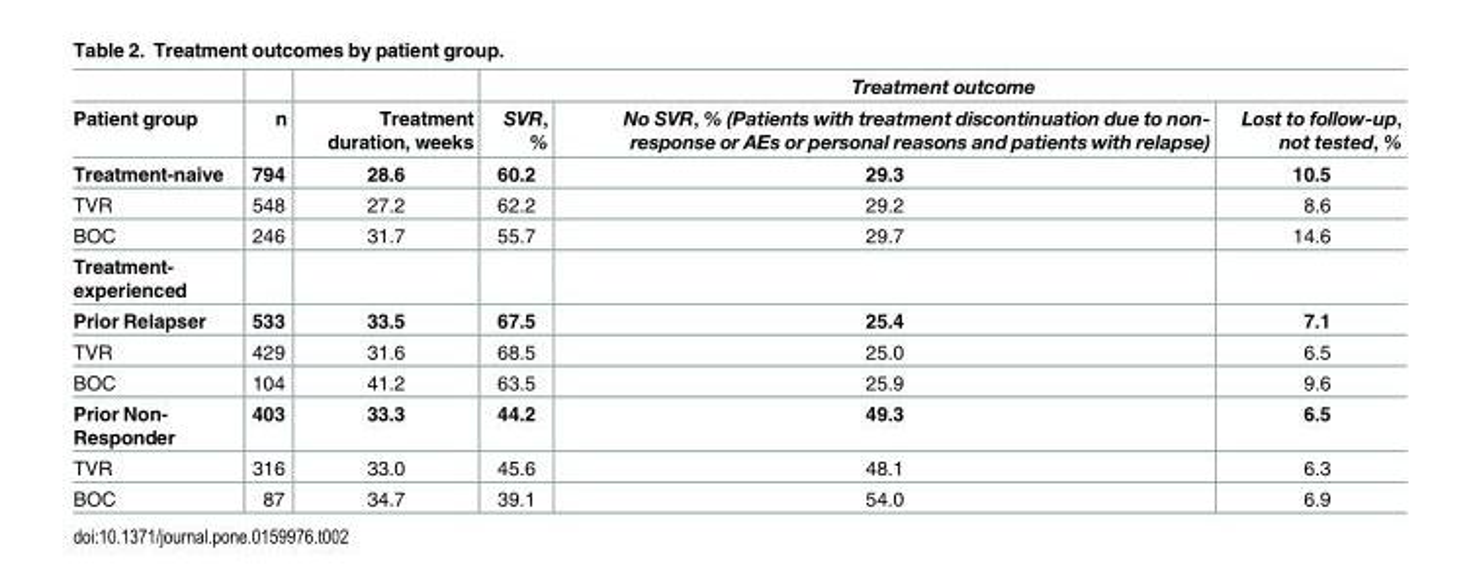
<table><thead><tr><td rowspan="2">Patient group</td><td rowspan="2">n</td><td rowspan="2">Treatment duration, weeks</td><td colspan="3">Treatment outcome</td></tr><tr><td>SVR, %</td><td>No SVR, % (Patients with treatment discontinuation due to non- response or AEs or personal reasons and patients with relapse)</td><td>Lost to follow-up, not tested, %</td></tr></thead><tbody><tr><td>Treatment-naive</td><td>794</td><td>28.6</td><td>60.2</td><td>29.3</td><td>10.5</td></tr><tr><td>TVR</td><td>548</td><td>27.2</td><td>62.2</td><td>29.2</td><td>8.6</td></tr><tr><td>BOC</td><td>246</td><td>31.7</td><td>55.7</td><td>29.7</td><td>14.6</td></tr><tr><td colspan="6">Treatment- experienced</td></tr><tr><td>Prior Relapser</td><td>533</td><td>33.5</td><td>67.5</td><td>25.4</td><td>7.1</td></tr><tr><td>TVR</td><td>429</td><td>31.6</td><td>68.5</td><td>25.0</td><td>6.5</td></tr><tr><td>BOC</td><td>104</td><td>41.2</td><td>63.5</td><td>25.9</td><td>9.6</td></tr><tr><td>Prior Non- Responder</td><td>403</td><td>33.3</td><td>44.2</td><td>49.3</td><td>6.5</td></tr><tr><td>TVR</td><td>316</td><td>33.0</td><td>45.6</td><td>48.1</td><td>6.3</td></tr><tr><td>BOC</td><td>87</td><td>34.7</td><td>39.1</td><td>54.0</td><td>6.9</td></tr></tbody></table>